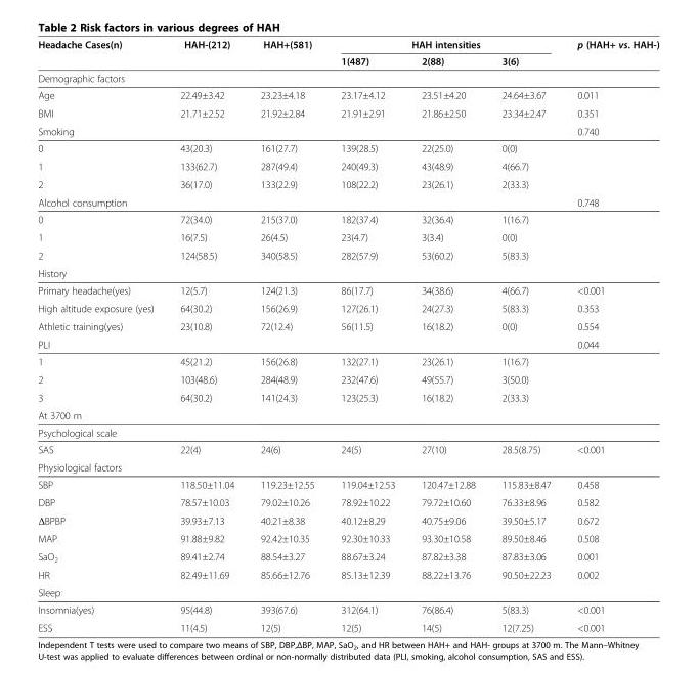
<table><thead><tr><td rowspan="2">Headache Cases(n)</td><td rowspan="2">HAH-(212)</td><td rowspan="2">HAH+(581)</td><td colspan="3">HAH intensities</td><td rowspan="2">p (HAH+ vs. HAH-)</td></tr><tr><td>1(487)</td><td>2(88)</td><td>3(6)</td></tr></thead><tbody><tr><td colspan="7">Demographic factors</td></tr><tr><td>Age</td><td>22.49±3.42</td><td>23.23±4.18</td><td>23.17±4.12</td><td>23.51±4.20</td><td>24.64±3.67</td><td>0.011</td></tr><tr><td>BMI</td><td>21.71±2.52</td><td>21.92±2.84</td><td>21.91±2.91</td><td>21.86±2.50</td><td>23.34±2.47</td><td>0.351</td></tr><tr><td>Smoking</td><td></td><td></td><td></td><td></td><td></td><td>0.740</td></tr><tr><td>0</td><td>43(20.3)</td><td>161(27.7)</td><td>139(28.5)</td><td>22(25.0)</td><td>0(0)</td><td></td></tr><tr><td>1</td><td>133(62.7)</td><td>287(49.4)</td><td>240(49.3)</td><td>43(48.9)</td><td>4(66.7)</td><td></td></tr><tr><td>2</td><td>36(17.0)</td><td>133(22.9)</td><td>108(22.2)</td><td>23(26.1)</td><td>2(33.3)</td><td></td></tr><tr><td>Alcohol consumption</td><td></td><td></td><td></td><td></td><td></td><td>0.748</td></tr><tr><td>0</td><td>72(34.0)</td><td>215(37.0)</td><td>182(37.4)</td><td>32(36.4)</td><td>1(16.7)</td><td></td></tr><tr><td>1</td><td>16(7.5)</td><td>26(4.5)</td><td>23(4.7)</td><td>3(3.4)</td><td>0(0)</td><td></td></tr><tr><td>2</td><td>124(58.5)</td><td>340(58.5)</td><td>282(57.9)</td><td>53(60.2)</td><td>5(83.3)</td><td></td></tr><tr><td colspan="7">History</td></tr><tr><td>Primary headache(yes)</td><td>12(5.7)</td><td>124(21.3)</td><td>86(17.7)</td><td>34(38.6)</td><td>4(66.7)</td><td>&lt;0.001</td></tr><tr><td>High altitude exposure (yes)</td><td>64(30.2)</td><td>156(26.9)</td><td>127(26.1)</td><td>24(27.3)</td><td>5(83.3)</td><td>0.353</td></tr><tr><td>Athletic training(yes)</td><td>23(10.8)</td><td>72(12.4)</td><td>56(11.5)</td><td>16(18.2)</td><td>0(0)</td><td>0.554</td></tr><tr><td>PLI</td><td></td><td></td><td></td><td></td><td></td><td>0.044</td></tr><tr><td>1</td><td>45(21.2)</td><td>156(26.8)</td><td>132(27.1)</td><td>23(26.1)</td><td>1(16.7)</td><td></td></tr><tr><td>2</td><td>103(48.6)</td><td>284(48.9)</td><td>232(47.6)</td><td>49(55.7)</td><td>3(50.0)</td><td></td></tr><tr><td>3</td><td>64(30.2)</td><td>141(24.3)</td><td>123(25.3)</td><td>16(18.2)</td><td>2(33.3)</td><td></td></tr><tr><td colspan="7">At 3700 m</td></tr><tr><td colspan="7">Psychological scale</td></tr><tr><td>SAS</td><td>22(4)</td><td>24(6)</td><td>24(5)</td><td>27(10)</td><td>28.5(8.75)</td><td>&lt;0.001</td></tr><tr><td colspan="7">Physiological factors</td></tr><tr><td>SBP</td><td>118.50±11.04</td><td>119.23±12.55</td><td>119.04±12.53</td><td>120.47±12.88</td><td>115.83±8.47</td><td>0.458</td></tr><tr><td>DBP</td><td>78.57±10.03</td><td>79.02±10.26</td><td>78.92±10.22</td><td>79.72±10.60</td><td>76.33±8.96</td><td>0.582</td></tr><tr><td>ΔBPBP</td><td>39.93±7.13</td><td>40.21±8.38</td><td>40.12±8.29</td><td>40.75±9.06</td><td>39.50±5.17</td><td>0.672</td></tr><tr><td>MAP</td><td>91.88±9.82</td><td>92.42±10.35</td><td>92.30±10.33</td><td>93.30±10.58</td><td>89.50±8.46</td><td>0.508</td></tr><tr><td>SaO<sub>2</sub></td><td>89.41±2.74</td><td>88.54±3.27</td><td>88.67±3.24</td><td>87.82±3.38</td><td>87.83±3.06</td><td>0.001</td></tr><tr><td>HR</td><td>82.49±11.69</td><td>85.66±12.76</td><td>85.13±12.39</td><td>88.22±13.76</td><td>90.50±22.23</td><td>0.002</td></tr><tr><td colspan="7">Sleep</td></tr><tr><td>Insomnia(yes)</td><td>95(44.8)</td><td>393(67.6)</td><td>312(64.1)</td><td>76(86.4)</td><td>5(83.3)</td><td>&lt;0.001</td></tr><tr><td>ESS</td><td>11(4.5)</td><td>12(5)</td><td>12(5)</td><td>14(5)</td><td>12(7.25)</td><td>&lt;0.001</td></tr></tbody></table>